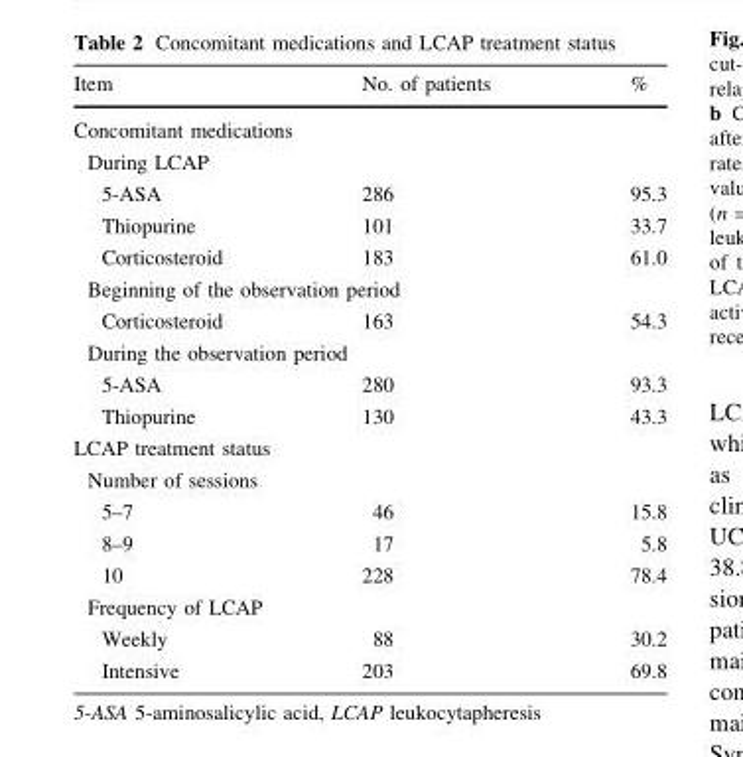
<table><thead><tr><td>Item</td><td>No. of patients</td><td>%</td></tr></thead><tbody><tr><td colspan="3">Concomitant medications</td></tr><tr><td colspan="3">During LCAP</td></tr><tr><td>5-ASA</td><td>286</td><td>95.3</td></tr><tr><td>Thiopurine</td><td>101</td><td>33.7</td></tr><tr><td>Corticosteroid</td><td>183</td><td>61.0</td></tr><tr><td colspan="3">Beginning of the observation period</td></tr><tr><td>Corticosteroid</td><td>163</td><td>54.3</td></tr><tr><td colspan="3">During the observation period</td></tr><tr><td>5-ASA</td><td>280</td><td>93.3</td></tr><tr><td>Thiopurine</td><td>130</td><td>43.3</td></tr><tr><td colspan="3">LCAP treatment status</td></tr><tr><td colspan="3">Number of sessions</td></tr><tr><td>5–7</td><td>46</td><td>15.8</td></tr><tr><td>8–9</td><td>17</td><td>5.8</td></tr><tr><td>10</td><td>228</td><td>78.4</td></tr><tr><td colspan="3">Frequency of LCAP</td></tr><tr><td>Weekly</td><td>88</td><td>30.2</td></tr><tr><td>Intensive</td><td>203</td><td>69.8</td></tr></tbody></table>